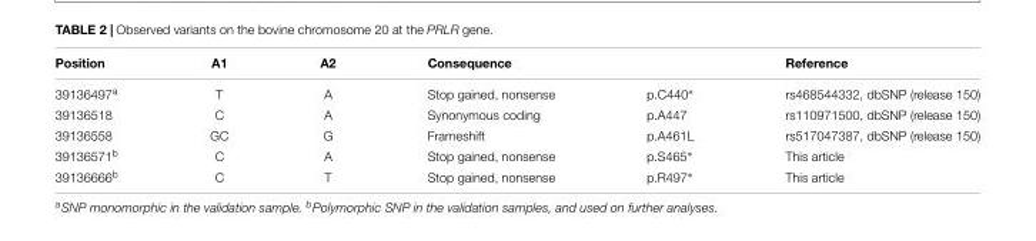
<table><thead><tr><td>Position</td><td>A1</td><td>A2</td><td>Consequence</td><td></td><td>Reference</td></tr></thead><tbody><tr><td>39136497<sup>a</sup></td><td>T</td><td>A</td><td>Stop gained, nonsense</td><td>p.C440∗</td><td>rs468544332, dbSNP (release 150)</td></tr><tr><td>39136518</td><td>C</td><td>A</td><td>Synonymous coding</td><td>p.A447</td><td>rs110971500, dbSNP (release 150)</td></tr><tr><td>39136558</td><td>GC</td><td>G</td><td>Frameshift</td><td>p.A461L</td><td>rs517047387, dbSNP (release 150)</td></tr><tr><td>39136571<sup>b</sup></td><td>C</td><td>A</td><td>Stop gained, nonsense</td><td>p.S465∗</td><td>This article</td></tr><tr><td>39136666<sup>b</sup></td><td>C</td><td>T</td><td>Stop gained, nonsense</td><td>p.R497∗</td><td>This article</td></tr></tbody></table>